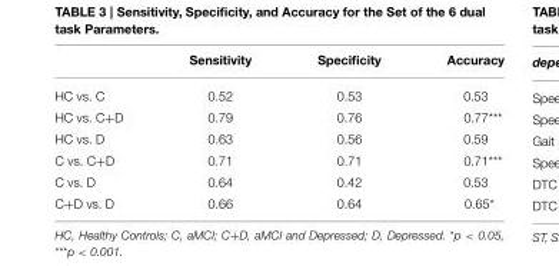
<table><thead><tr><td></td><td>Sensitivity</td><td>Specificity</td><td>Accuracy</td></tr></thead><tbody><tr><td>HC vs. C</td><td>0.52</td><td>0.53</td><td>0.53</td></tr><tr><td>HC vs. C+D</td><td>0.79</td><td>0.76</td><td>0.77***</td></tr><tr><td>HC vs. D</td><td>0.63</td><td>0.56</td><td>0.59</td></tr><tr><td>C vs. C+D</td><td>0.71</td><td>0.71</td><td>0.71***</td></tr><tr><td>C vs. D</td><td>0.64</td><td>0.42</td><td>0.53</td></tr><tr><td>C+D vs. D</td><td>0.66</td><td>0.64</td><td>0.65*</td></tr></tbody></table>